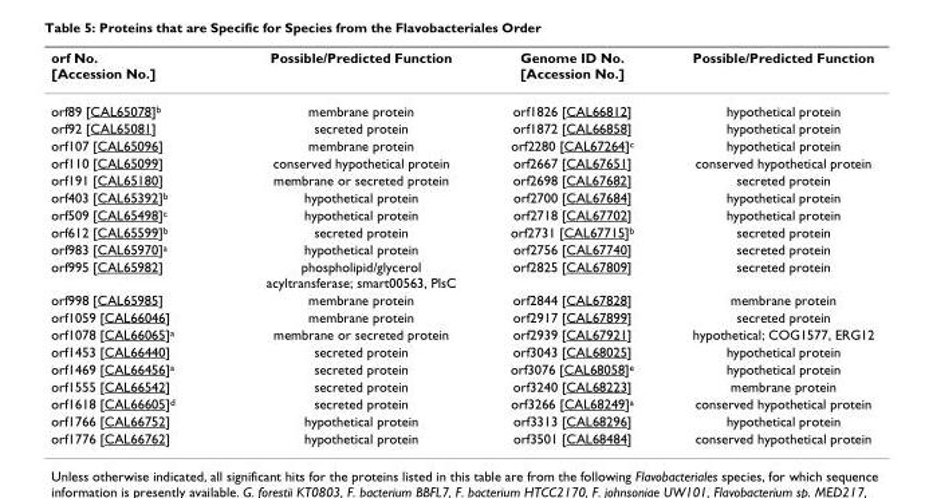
<table><thead><tr><td>orf No. [Accession No.]</td><td>Possible/Predicted Function</td><td>Genome ID No. [Accession No.]</td><td>Possible/Predicted Function</td></tr></thead><tbody><tr><td>orf89 [CAL65078]<sup>b</sup></td><td>membrane protein</td><td>orf1826 [CAL66812]</td><td>hypothetical protein</td></tr><tr><td>orf92 [CAL65081]</td><td>secreted protein</td><td>orf1872 [CAL66858]</td><td>hypothetical protein</td></tr><tr><td>orf107 [CAL65096]</td><td>membrane protein</td><td>orf2280 [CAL67264]<sup>c</sup></td><td>hypothetical protein</td></tr><tr><td>orf110 [CAL65099]</td><td>conserved hypothetical protein</td><td>orf2667 [CAL67651]</td><td>conserved hypothetical protein</td></tr><tr><td>orf191 [CAL65180]</td><td>membrane or secreted protein</td><td>orf2698 [CAL67682]</td><td>secreted protein</td></tr><tr><td>orf403 [CAL65392]<sup>b</sup></td><td>hypothetical protein</td><td>orf2700 [CAL67684]</td><td>hypothetical protein</td></tr><tr><td>orf509 [CAL65498]<sup>c</sup></td><td>hypothetical protein</td><td>orf2718 [CAL67702]</td><td>hypothetical protein</td></tr><tr><td>orf612 [CAL65599]<sup>b</sup></td><td>secreted protein</td><td>orf2731 [CAL67715]<sup>b</sup></td><td>secreted protein</td></tr><tr><td>orf983 [CAL65970]<sup>a</sup></td><td>hypothetical protein</td><td>orf2756 [CAL67740]</td><td>secreted protein</td></tr><tr><td>orf995 [CAL65982]</td><td>phospholipid/glycerol acyltransferase; smart00563, PlsC</td><td>orf2825 [CAL67809]</td><td>secreted protein</td></tr><tr><td>orf998 [CAL65985]</td><td>membrane protein</td><td>orf2844 [CAL67828]</td><td>membrane protein</td></tr><tr><td>orf1059 [CAL66046]</td><td>membrane protein</td><td>orf2917 [CAL67899]</td><td>secreted protein</td></tr><tr><td>orf1078 [CAL66065]<sup>a</sup></td><td>membrane or secreted protein</td><td>orf2939 [CAL67921]</td><td>hypothetical; COG1577, ERG12</td></tr><tr><td>orf1453 [CAL66440]</td><td>secreted protein</td><td>orf3043 [CAL68025]</td><td>hypothetical protein</td></tr><tr><td>orf1469 [CAL66456]<sup>a</sup></td><td>secreted protein</td><td>orf3076 [CAL68058]<sup>e</sup></td><td>hypothetical protein</td></tr><tr><td>orf1555 [CAL66542]</td><td>secreted protein</td><td>orf3240 [CAL68223]</td><td>membrane protein</td></tr><tr><td>orf1618 [CAL66605]<sup>d</sup></td><td>secreted protein</td><td>orf3266 [CAL68249]<sup>a</sup></td><td>conserved hypothetical protein</td></tr><tr><td>orf1766 [CAL66752]</td><td>hypothetical protein</td><td>orf3313 [CAL68296]</td><td>hypothetical protein</td></tr><tr><td>orf1776 [CAL66762]</td><td>hypothetical protein</td><td>orf3501 [CAL68484]</td><td>conserved hypothetical protein</td></tr></tbody></table>